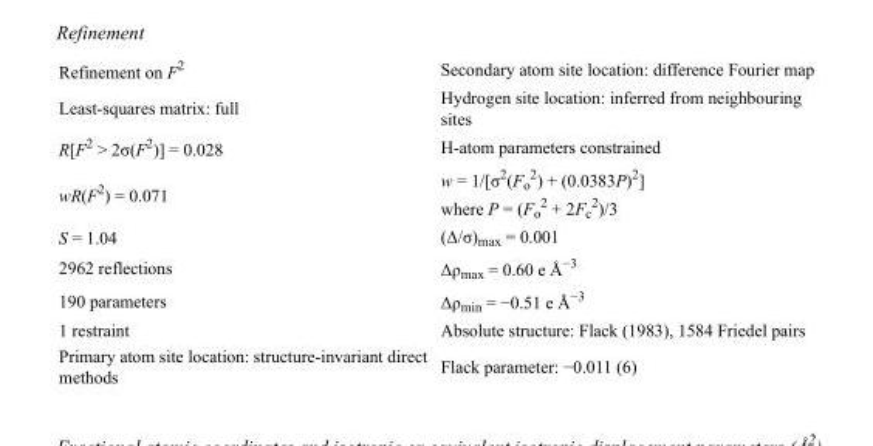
<table><tbody><tr><td>Refinement on F<sup>2</sup></td><td>Secondary atom site location: difference Fourier map</td></tr><tr><td>Least-squares matrix: full</td><td>Hydrogen site location: inferred from neighbouring sites</td></tr><tr><td>R[F<sup>2</sup> &gt; 2σ(F<sup>2</sup>)] = 0.028</td><td>H-atom parameters constrained</td></tr><tr><td>wR(F<sup>2</sup>) = 0.071</td><td>w = 1/[σ<sup>2</sup>(F<sub>o</sub> <sup>2</sup>) + (0.0383P)<sup>2</sup>] where P = (F<sub>o</sub> <sup>2</sup> + 2F<sub>c</sub> <sup>2</sup>)/3</td></tr><tr><td>S = 1.04</td><td>(Δ/σ)<sub>max</sub> = 0.001</td></tr><tr><td>2962 reflections</td><td>Δρ<sub>max</sub> = 0.60 e Å<sup>−3</sup></td></tr><tr><td>190 parameters</td><td>Δρ<sub>min</sub> = −0.51 e Å<sup>−3</sup></td></tr><tr><td>1 restraint</td><td>Absolute structure: Flack (1983), 1584 Friedel pairs</td></tr><tr><td>Primary atom site location: structure-invariant direct methods</td><td>Flack parameter: −0.011 (6)</td></tr></tbody></table>